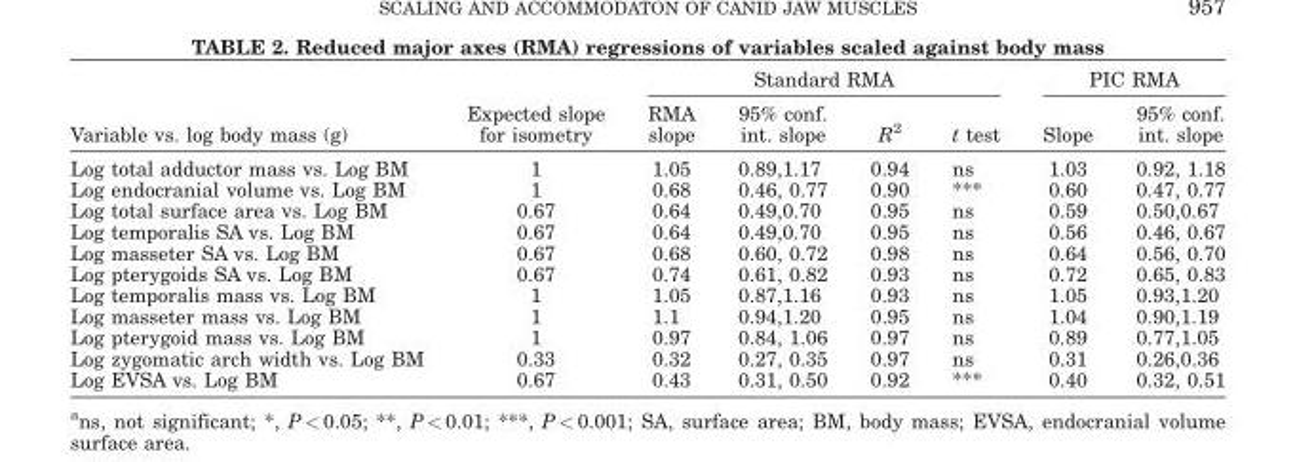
<table><thead><tr><td rowspan="2">Variable vs. log body mass (g)</td><td rowspan="2">Expected slope for isometry</td><td colspan="4">Standard RMA</td><td colspan="2">PIC RMA</td></tr><tr><td>RMA slope</td><td>95% conf. int. slope</td><td>R<sup>2</sup></td><td>t test</td><td>Slope</td><td>95% conf. int. slope</td></tr></thead><tbody><tr><td>Log total adductor mass vs. Log BM</td><td>1</td><td>1.05</td><td>0.89,1.17</td><td>0.94</td><td>ns</td><td>1.03</td><td>0.92, 1.18</td></tr><tr><td>Log endocranial volume vs. Log BM</td><td>1</td><td>0.68</td><td>0.46, 0.77</td><td>0.90</td><td>***</td><td>0.60</td><td>0.47, 0.77</td></tr><tr><td>Log total surface area vs. Log BM</td><td>0.67</td><td>0.64</td><td>0.49,0.70</td><td>0.95</td><td>ns</td><td>0.59</td><td>0.50,0.67</td></tr><tr><td>Log temporalis SA vs. Log BM</td><td>0.67</td><td>0.64</td><td>0.49,0.70</td><td>0.95</td><td>ns</td><td>0.56</td><td>0.46, 0.67</td></tr><tr><td>Log masseter SA vs. Log BM</td><td>0.67</td><td>0.68</td><td>0.60, 0.72</td><td>0.98</td><td>ns</td><td>0.64</td><td>0.56, 0.70</td></tr><tr><td>Log pterygoids SA vs. Log BM</td><td>0.67</td><td>0.74</td><td>0.61, 0.82</td><td>0.93</td><td>ns</td><td>0.72</td><td>0.65, 0.83</td></tr><tr><td>Log temporalis mass vs. Log BM</td><td>1</td><td>1.05</td><td>0.87,1.16</td><td>0.93</td><td>ns</td><td>1.05</td><td>0.93,1.20</td></tr><tr><td>Log masseter mass vs. Log BM</td><td>1</td><td>1.1</td><td>0.94,1.20</td><td>0.95</td><td>ns</td><td>1.04</td><td>0.90,1.19</td></tr><tr><td>Log pterygoid mass vs. Log BM</td><td>1</td><td>0.97</td><td>0.84, 1.06</td><td>0.97</td><td>ns</td><td>0.89</td><td>0.77,1.05</td></tr><tr><td>Log zygomatic arch width vs. Log BM</td><td>0.33</td><td>0.32</td><td>0.27, 0.35</td><td>0.97</td><td>ns</td><td>0.31</td><td>0.26,0.36</td></tr><tr><td>Log EVSA vs. Log BM</td><td>0.67</td><td>0.43</td><td>0.31, 0.50</td><td>0.92</td><td>***</td><td>0.40</td><td>0.32, 0.51</td></tr></tbody></table>